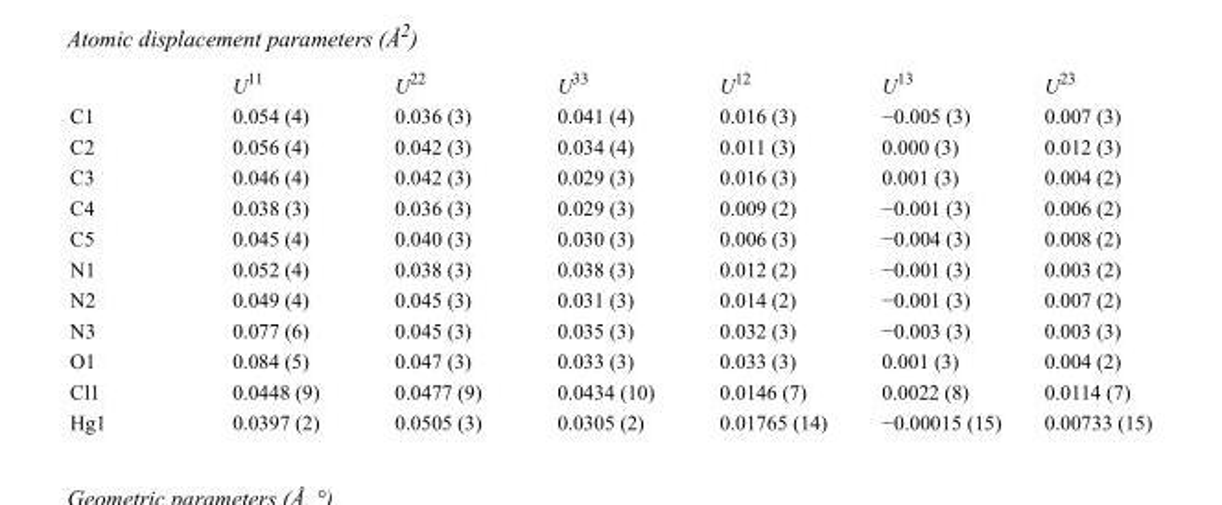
<table><thead><tr><td></td><td>U<sup>11</sup></td><td>U<sup>22</sup></td><td>U<sup>33</sup></td><td>U<sup>12</sup></td><td>U<sup>13</sup></td><td>U<sup>23</sup></td></tr></thead><tbody><tr><td>C1</td><td>0.054 (4)</td><td>0.036 (3)</td><td>0.041 (4)</td><td>0.016 (3)</td><td>−0.005 (3)</td><td>0.007 (3)</td></tr><tr><td>C2</td><td>0.056 (4)</td><td>0.042 (3)</td><td>0.034 (4)</td><td>0.011 (3)</td><td>0.000 (3)</td><td>0.012 (3)</td></tr><tr><td>C3</td><td>0.046 (4)</td><td>0.042 (3)</td><td>0.029 (3)</td><td>0.016 (3)</td><td>0.001 (3)</td><td>0.004 (2)</td></tr><tr><td>C4</td><td>0.038 (3)</td><td>0.036 (3)</td><td>0.029 (3)</td><td>0.009 (2)</td><td>−0.001 (3)</td><td>0.006 (2)</td></tr><tr><td>C5</td><td>0.045 (4)</td><td>0.040 (3)</td><td>0.030 (3)</td><td>0.006 (3)</td><td>−0.004 (3)</td><td>0.008 (2)</td></tr><tr><td>N1</td><td>0.052 (4)</td><td>0.038 (3)</td><td>0.038 (3)</td><td>0.012 (2)</td><td>−0.001 (3)</td><td>0.003 (2)</td></tr><tr><td>N2</td><td>0.049 (4)</td><td>0.045 (3)</td><td>0.031 (3)</td><td>0.014 (2)</td><td>−0.001 (3)</td><td>0.007 (2)</td></tr><tr><td>N3</td><td>0.077 (6)</td><td>0.045 (3)</td><td>0.035 (3)</td><td>0.032 (3)</td><td>−0.003 (3)</td><td>0.003 (3)</td></tr><tr><td>O1</td><td>0.084 (5)</td><td>0.047 (3)</td><td>0.033 (3)</td><td>0.033 (3)</td><td>0.001 (3)</td><td>0.004 (2)</td></tr><tr><td>Cl1</td><td>0.0448 (9)</td><td>0.0477 (9)</td><td>0.0434 (10)</td><td>0.0146 (7)</td><td>0.0022 (8)</td><td>0.0114 (7)</td></tr><tr><td>Hg1</td><td>0.0397 (2)</td><td>0.0505 (3)</td><td>0.0305 (2)</td><td>0.01765 (14)</td><td>−0.00015 (15)</td><td>0.00733 (15)</td></tr></tbody></table>